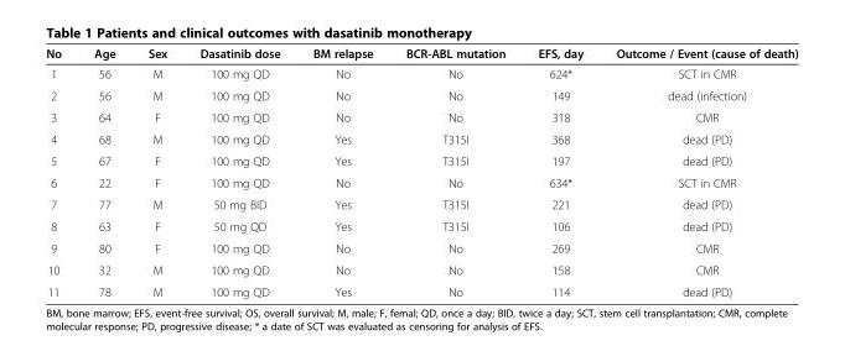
<table><thead><tr><td>No</td><td>Age</td><td>Sex</td><td>Dasatinib dose</td><td>BM relapse</td><td>BCR-ABL mutation</td><td>EFS, day</td><td>Outcome / Event (cause of death)</td></tr></thead><tbody><tr><td>1</td><td>56</td><td>M</td><td>100 mg QD</td><td>No</td><td>No</td><td>624*</td><td>SCT in CMR</td></tr><tr><td>2</td><td>56</td><td>M</td><td>100 mg QD</td><td>No</td><td>No</td><td>149</td><td>dead (infection)</td></tr><tr><td>3</td><td>64</td><td>F</td><td>100 mg QD</td><td>No</td><td>No</td><td>318</td><td>CMR</td></tr><tr><td>4</td><td>68</td><td>M</td><td>100 mg QD</td><td>Yes</td><td>T315I</td><td>368</td><td>dead (PD)</td></tr><tr><td>5</td><td>67</td><td>F</td><td>100 mg QD</td><td>Yes</td><td>T315I</td><td>197</td><td>dead (PD)</td></tr><tr><td>6</td><td>22</td><td>F</td><td>100 mg QD</td><td>No</td><td>No</td><td>634*</td><td>SCT in CMR</td></tr><tr><td>7</td><td>77</td><td>M</td><td>50 mg BID</td><td>Yes</td><td>T315I</td><td>221</td><td>dead (PD)</td></tr><tr><td>8</td><td>63</td><td>F</td><td>50 mg QD</td><td>Yes</td><td>T315I</td><td>106</td><td>dead (PD)</td></tr><tr><td>9</td><td>80</td><td>F</td><td>100 mg QD</td><td>No</td><td>No</td><td>269</td><td>CMR</td></tr><tr><td>10</td><td>32</td><td>M</td><td>100 mg QD</td><td>No</td><td>No</td><td>158</td><td>CMR</td></tr><tr><td>11</td><td>78</td><td>M</td><td>100 mg QD</td><td>Yes</td><td>No</td><td>114</td><td>dead (PD)</td></tr></tbody></table>